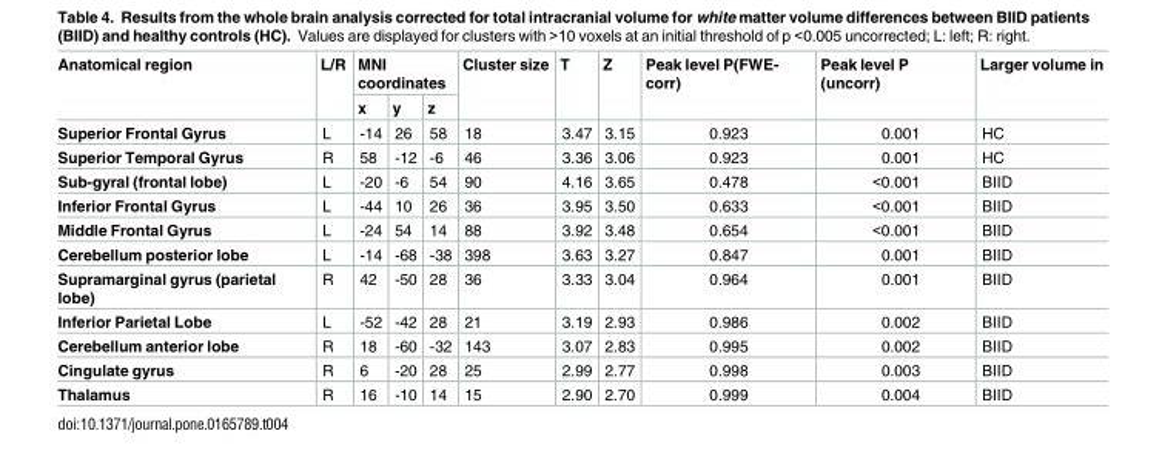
<table><thead><tr><td rowspan="2">Anatomical region</td><td rowspan="2">L/R</td><td colspan="3">MNI coordinates</td><td rowspan="2">Cluster size</td><td rowspan="2">T</td><td rowspan="2">Z</td><td rowspan="2">Peak level P(FWE- corr)</td><td rowspan="2">Peak level P (uncorr)</td><td rowspan="2">Larger volume in</td></tr><tr><td>x</td><td>y</td><td>z</td></tr></thead><tbody><tr><td>Superior Frontal Gyrus</td><td>L</td><td>-14</td><td>26</td><td>58</td><td>18</td><td>3.47</td><td>3.15</td><td>0.923</td><td>0.001</td><td>HC</td></tr><tr><td>Superior Temporal Gyrus</td><td>R</td><td>58</td><td>-12</td><td>-6</td><td>46</td><td>3.36</td><td>3.06</td><td>0.923</td><td>0.001</td><td>HC</td></tr><tr><td>Sub-gyral (frontal lobe)</td><td>L</td><td>-20</td><td>-6</td><td>54</td><td>90</td><td>4.16</td><td>3.65</td><td>0.478</td><td>&lt;0.001</td><td>BIID</td></tr><tr><td>Inferior Frontal Gyrus</td><td>L</td><td>-44</td><td>10</td><td>26</td><td>36</td><td>3.95</td><td>3.50</td><td>0.633</td><td>&lt;0.001</td><td>BIID</td></tr><tr><td>Middle Frontal Gyrus</td><td>L</td><td>-24</td><td>54</td><td>14</td><td>88</td><td>3.92</td><td>3.48</td><td>0.654</td><td>&lt;0.001</td><td>BIID</td></tr><tr><td>Cerebellum posterior lobe</td><td>L</td><td>-14</td><td>-68</td><td>-38</td><td>398</td><td>3.63</td><td>3.27</td><td>0.847</td><td>0.001</td><td>BIID</td></tr><tr><td>Supramarginal gyrus (parietal lobe)</td><td>R</td><td>42</td><td>-50</td><td>28</td><td>36</td><td>3.33</td><td>3.04</td><td>0.964</td><td>0.001</td><td>BIID</td></tr><tr><td>Inferior Parietal Lobe</td><td>L</td><td>-52</td><td>-42</td><td>28</td><td>21</td><td>3.19</td><td>2.93</td><td>0.986</td><td>0.002</td><td>BIID</td></tr><tr><td>Cerebellum anterior lobe</td><td>R</td><td>18</td><td>-60</td><td>-32</td><td>143</td><td>3.07</td><td>2.83</td><td>0.995</td><td>0.002</td><td>BIID</td></tr><tr><td>Cingulate gyrus</td><td>R</td><td>6</td><td>-20</td><td>28</td><td>25</td><td>2.99</td><td>2.77</td><td>0.998</td><td>0.003</td><td>BIID</td></tr><tr><td>Thalamus</td><td>R</td><td>16</td><td>-10</td><td>14</td><td>15</td><td>2.90</td><td>2.70</td><td>0.999</td><td>0.004</td><td>BIID</td></tr></tbody></table>